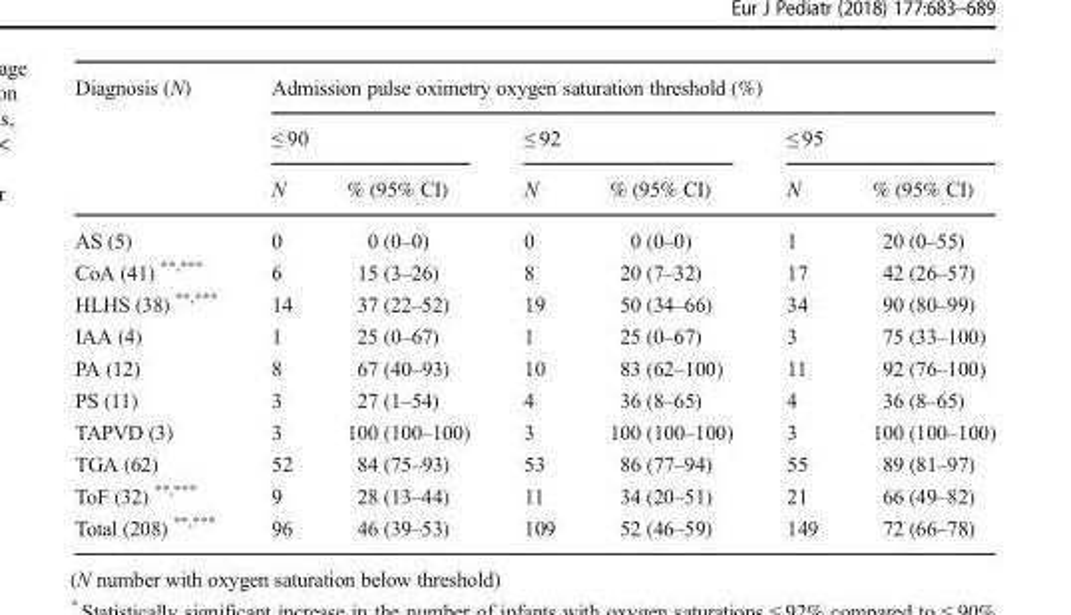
<table><thead><tr><td rowspan="3">Diagnosis (N)</td><td colspan="6">Admission pulse oximetry oxygen saturation threshold (%)</td></tr><tr><td colspan="2">≤ 90</td><td colspan="2">≤ 92</td><td colspan="2">≤ 95</td></tr><tr><td>N</td><td>% (95% CI)</td><td>N</td><td>% (95% CI)</td><td>N</td><td>% (95% CI)</td></tr></thead><tbody><tr><td>AS (5)</td><td>0</td><td>0 (0–0)</td><td>0</td><td>0 (0–0)</td><td>1</td><td>20 (0–55)</td></tr><tr><td>CoA (41) <sup>**,***</sup></td><td>6</td><td>15 (3–26)</td><td>8</td><td>20 (7–32)</td><td>17</td><td>42 (26–57)</td></tr><tr><td>HLHS (38) <sup>**,***</sup></td><td>14</td><td>37 (22–52)</td><td>19</td><td>50 (34–66)</td><td>34</td><td>90 (80–99)</td></tr><tr><td>IAA (4)</td><td>1</td><td>25 (0–67)</td><td>1</td><td>25 (0–67)</td><td>3</td><td>75 (33–100)</td></tr><tr><td>PA (12)</td><td>8</td><td>67 (40–93)</td><td>10</td><td>83 (62–100)</td><td>11</td><td>92 (76–100)</td></tr><tr><td>PS (11)</td><td>3</td><td>27 (1–54)</td><td>4</td><td>36 (8–65)</td><td>4</td><td>36 (8–65)</td></tr><tr><td>TAPVD (3)</td><td>3</td><td>100 (100–100)</td><td>3</td><td>100 (100–100)</td><td>3</td><td>100 (100–100)</td></tr><tr><td>TGA (62)</td><td>52</td><td>84 (75–93)</td><td>53</td><td>86 (77–94)</td><td>55</td><td>89 (81–97)</td></tr><tr><td>ToF (32) <sup>**,***</sup></td><td>9</td><td>28 (13–44)</td><td>11</td><td>34 (20–51)</td><td>21</td><td>66 (49–82)</td></tr><tr><td>Total (208) <sup>**,***</sup></td><td>96</td><td>46 (39–53)</td><td>109</td><td>52 (46–59)</td><td>149</td><td>72 (66–78)</td></tr></tbody></table>